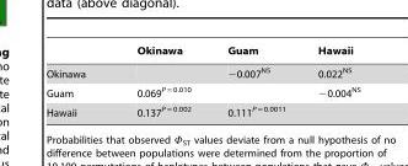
<table><thead><tr><td></td><td>Okinawa</td><td>Guam</td><td>Hawaii</td></tr></thead><tbody><tr><td>Okinawa</td><td></td><td>−0.007<sup>NS</sup></td><td>0.022<sup>NS</sup></td></tr><tr><td>Guam</td><td>0.069<sup>P = 0.010</sup></td><td></td><td>−0.004<sup>NS</sup></td></tr><tr><td>Hawaii</td><td>0.137<sup>P = 0.002</sup></td><td>0.111<sup>P = 0.0011</sup></td><td></td></tr></tbody></table>